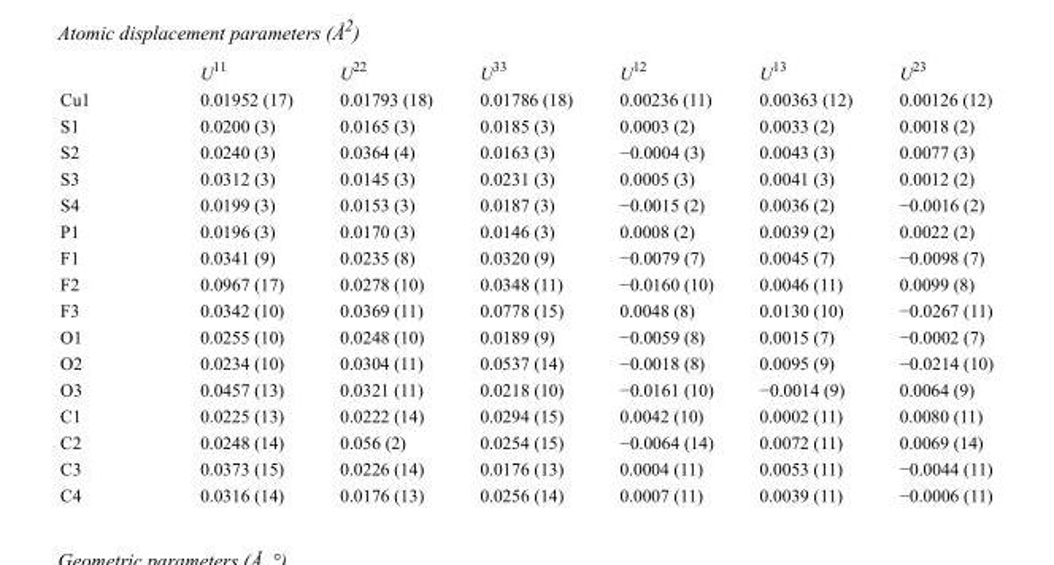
<table><thead><tr><td></td><td>U<sup>11</sup></td><td>U<sup>22</sup></td><td>U<sup>33</sup></td><td>U<sup>12</sup></td><td>U<sup>13</sup></td><td>U<sup>23</sup></td></tr></thead><tbody><tr><td>Cu1</td><td>0.01952 (17)</td><td>0.01793 (18)</td><td>0.01786 (18)</td><td>0.00236 (11)</td><td>0.00363 (12)</td><td>0.00126 (12)</td></tr><tr><td>S1</td><td>0.0200 (3)</td><td>0.0165 (3)</td><td>0.0185 (3)</td><td>0.0003 (2)</td><td>0.0033 (2)</td><td>0.0018 (2)</td></tr><tr><td>S2</td><td>0.0240 (3)</td><td>0.0364 (4)</td><td>0.0163 (3)</td><td>−0.0004 (3)</td><td>0.0043 (3)</td><td>0.0077 (3)</td></tr><tr><td>S3</td><td>0.0312 (3)</td><td>0.0145 (3)</td><td>0.0231 (3)</td><td>0.0005 (3)</td><td>0.0041 (3)</td><td>0.0012 (2)</td></tr><tr><td>S4</td><td>0.0199 (3)</td><td>0.0153 (3)</td><td>0.0187 (3)</td><td>−0.0015 (2)</td><td>0.0036 (2)</td><td>−0.0016 (2)</td></tr><tr><td>P1</td><td>0.0196 (3)</td><td>0.0170 (3)</td><td>0.0146 (3)</td><td>0.0008 (2)</td><td>0.0039 (2)</td><td>0.0022 (2)</td></tr><tr><td>F1</td><td>0.0341 (9)</td><td>0.0235 (8)</td><td>0.0320 (9)</td><td>−0.0079 (7)</td><td>0.0045 (7)</td><td>−0.0098 (7)</td></tr><tr><td>F2</td><td>0.0967 (17)</td><td>0.0278 (10)</td><td>0.0348 (11)</td><td>−0.0160 (10)</td><td>0.0046 (11)</td><td>0.0099 (8)</td></tr><tr><td>F3</td><td>0.0342 (10)</td><td>0.0369 (11)</td><td>0.0778 (15)</td><td>0.0048 (8)</td><td>0.0130 (10)</td><td>−0.0267 (11)</td></tr><tr><td>O1</td><td>0.0255 (10)</td><td>0.0248 (10)</td><td>0.0189 (9)</td><td>−0.0059 (8)</td><td>0.0015 (7)</td><td>−0.0002 (7)</td></tr><tr><td>O2</td><td>0.0234 (10)</td><td>0.0304 (11)</td><td>0.0537 (14)</td><td>−0.0018 (8)</td><td>0.0095 (9)</td><td>−0.0214 (10)</td></tr><tr><td>O3</td><td>0.0457 (13)</td><td>0.0321 (11)</td><td>0.0218 (10)</td><td>−0.0161 (10)</td><td>−0.0014 (9)</td><td>0.0064 (9)</td></tr><tr><td>C1</td><td>0.0225 (13)</td><td>0.0222 (14)</td><td>0.0294 (15)</td><td>0.0042 (10)</td><td>0.0002 (11)</td><td>0.0080 (11)</td></tr><tr><td>C2</td><td>0.0248 (14)</td><td>0.056 (2)</td><td>0.0254 (15)</td><td>−0.0064 (14)</td><td>0.0072 (11)</td><td>0.0069 (14)</td></tr><tr><td>C3</td><td>0.0373 (15)</td><td>0.0226 (14)</td><td>0.0176 (13)</td><td>0.0004 (11)</td><td>0.0053 (11)</td><td>−0.0044 (11)</td></tr><tr><td>C4</td><td>0.0316 (14)</td><td>0.0176 (13)</td><td>0.0256 (14)</td><td>0.0007 (11)</td><td>0.0039 (11)</td><td>−0.0006 (11)</td></tr></tbody></table>